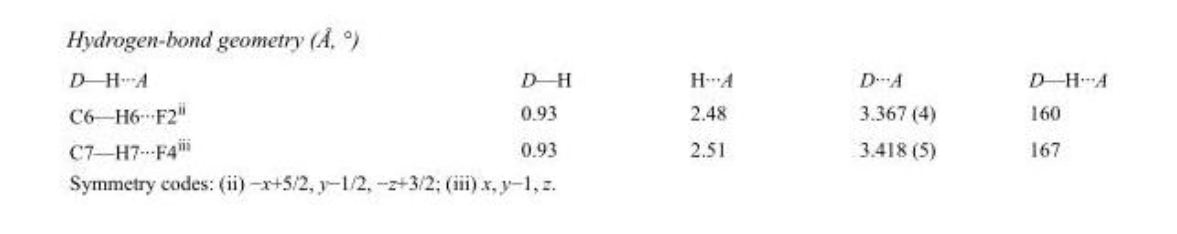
<table><tbody><tr><td>D—H···A</td><td>D—H</td><td>H···A</td><td>D···A</td><td>D—H···A</td></tr><tr><td>C6—H6···F2<sup>ii</sup></td><td>0.93</td><td>2.48</td><td>3.367 (4)</td><td>160</td></tr><tr><td>C7—H7···F4<sup>iii</sup></td><td>0.93</td><td>2.51</td><td>3.418 (5)</td><td>167</td></tr></tbody></table>